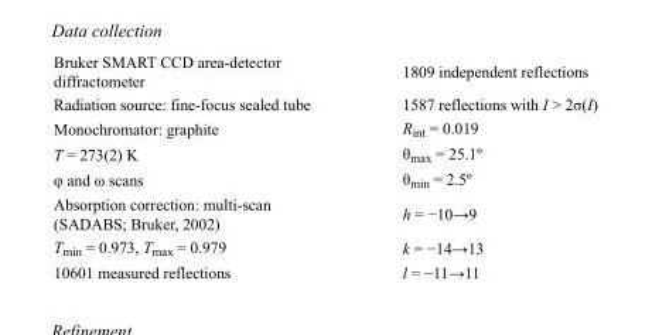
<table><tbody><tr><td>Bruker SMART CCD area-detector diffractometer</td><td>1809 independent reflections</td></tr><tr><td>Radiation source: fine-focus sealed tube</td><td>1587 reflections with I &gt; 2σ(I)</td></tr><tr><td>Monochromator: graphite</td><td>R<sub>int</sub> = 0.019</td></tr><tr><td>T = 273(2) K</td><td>θ<sub>max</sub> = 25.1º</td></tr><tr><td>φ and ω scans</td><td>θ<sub>min</sub> = 2.5º</td></tr><tr><td>Absorption correction: multi-scan (SADABS; Bruker, 2002)</td><td>h = −10→9</td></tr><tr><td>T<sub>min</sub> = 0.973, T<sub>max</sub> = 0.979</td><td>k = −14→13</td></tr><tr><td>10601 measured reflections</td><td>l = −11→11</td></tr></tbody></table>